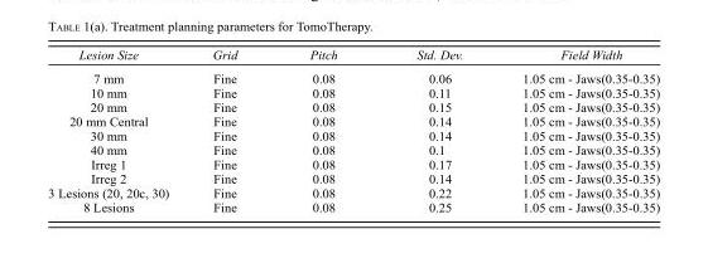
<table><thead><tr><td>Lesion Size</td><td>Grid</td><td>Pitch</td><td>Std. Dev.</td><td>Field Width</td></tr></thead><tbody><tr><td>7 mm</td><td>Fine</td><td>0.08</td><td>0.06</td><td>1.05 cm - Jaws(0.35-0.35)</td></tr><tr><td>10 mm</td><td>Fine</td><td>0.08</td><td>0.11</td><td>1.05 cm - Jaws(0.35-0.35)</td></tr><tr><td>20 mm</td><td>Fine</td><td>0.08</td><td>0.15</td><td>1.05 cm - Jaws(0.35-0.35)</td></tr><tr><td>20 mm Central</td><td>Fine</td><td>0.08</td><td>0.14</td><td>1.05 cm - Jaws(0.35-0.35)</td></tr><tr><td>30 mm</td><td>Fine</td><td>0.08</td><td>0.14</td><td>1.05 cm - Jaws(0.35-0.35)</td></tr><tr><td>40 mm</td><td>Fine</td><td>0.08</td><td>0.1</td><td>1.05 cm - Jaws(0.35-0.35)</td></tr><tr><td>Irreg 1</td><td>Fine</td><td>0.08</td><td>0.17</td><td>1.05 cm - Jaws(0.35-0.35)</td></tr><tr><td>Irreg 2</td><td>Fine</td><td>0.08</td><td>0.14</td><td>1.05 cm - Jaws(0.35-0.35)</td></tr><tr><td>3 Lesions (20, 20c, 30)</td><td>Fine</td><td>0.08</td><td>0.22</td><td>1.05 cm - Jaws(0.35-0.35)</td></tr><tr><td>8 Lesions</td><td>Fine</td><td>0.08</td><td>0.25</td><td>1.05 cm - Jaws(0.35-0.35)</td></tr></tbody></table>